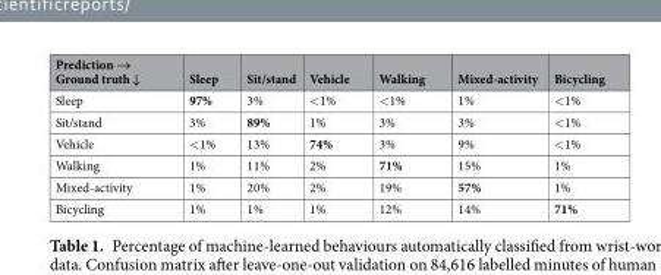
<table><thead><tr><td>Prediction → Ground truth ↓</td><td>Sleep</td><td>Sit/stand</td><td>Vehicle</td><td>Walking</td><td>Mixed-activity</td><td>Bicycling</td></tr></thead><tbody><tr><td>Sleep</td><td>97%</td><td>3%</td><td>&lt;1%</td><td>&lt;1%</td><td>1%</td><td>&lt;1%</td></tr><tr><td>Sit/stand</td><td>3%</td><td>89%</td><td>1%</td><td>3%</td><td>3%</td><td>&lt;1%</td></tr><tr><td>Vehicle</td><td>&lt;1%</td><td>13%</td><td>74%</td><td>3%</td><td>9%</td><td>&lt;1%</td></tr><tr><td>Walking</td><td>1%</td><td>11%</td><td>2%</td><td>71%</td><td>15%</td><td>1%</td></tr><tr><td>Mixed-activity</td><td>1%</td><td>20%</td><td>2%</td><td>19%</td><td>57%</td><td>1%</td></tr><tr><td>Bicycling</td><td>1%</td><td>1%</td><td>1%</td><td>12%</td><td>14%</td><td>71%</td></tr></tbody></table>